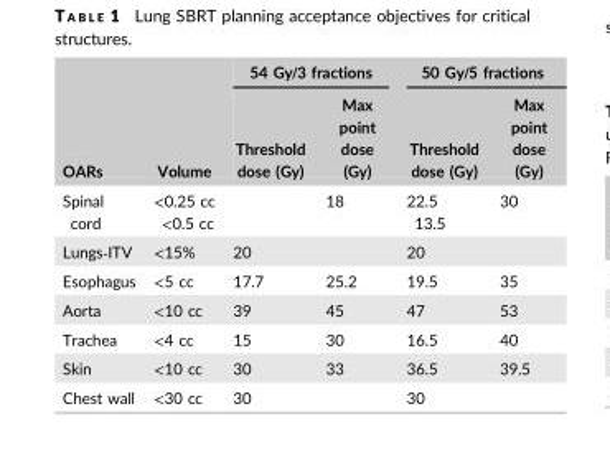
<table><thead><tr><td rowspan="2">OARs</td><td rowspan="2">Volume</td><td colspan="2">54 Gy/3 fractions</td><td colspan="2">50 Gy/5 fractions</td></tr><tr><td>Threshold dose (Gy)</td><td>Max point dose (Gy)</td><td>Threshold dose (Gy)</td><td>Max point dose (Gy)</td></tr></thead><tbody><tr><td>Spinal cord</td><td>&lt;0.25 cc &lt;0.5 cc</td><td></td><td>18</td><td>22.5 13.5</td><td>30</td></tr><tr><td>Lungs‐ITV</td><td>&lt;15%</td><td>20</td><td></td><td>20</td><td></td></tr><tr><td>Esophagus</td><td>&lt;5 cc</td><td>17.7</td><td>25.2</td><td>19.5</td><td>35</td></tr><tr><td>Aorta</td><td>&lt;10 cc</td><td>39</td><td>45</td><td>47</td><td>53</td></tr><tr><td>Trachea</td><td>&lt;4 cc</td><td>15</td><td>30</td><td>16.5</td><td>40</td></tr><tr><td>Skin</td><td>&lt;10 cc</td><td>30</td><td>33</td><td>36.5</td><td>39.5</td></tr><tr><td>Chest wall</td><td>&lt;30 cc</td><td>30</td><td></td><td>30</td><td></td></tr></tbody></table>